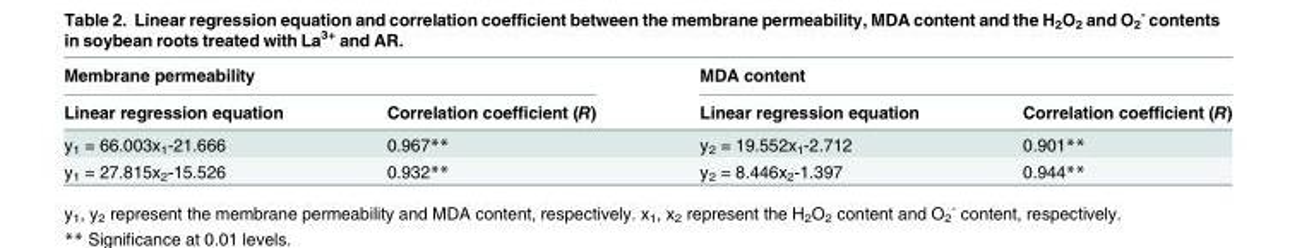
<table><thead><tr><td colspan="2">Membrane permeability</td><td colspan="2">MDA content</td></tr><tr><td>Linear regression equation</td><td>Correlation coefficient (R)</td><td>Linear regression equation</td><td>Correlation coefficient (R)</td></tr></thead><tbody><tr><td>y<sub>1</sub> = 66.003x<sub>1</sub>-21.666</td><td>0.967**</td><td>y<sub>2</sub> = 19.552x<sub>1</sub>-2.712</td><td>0.901**</td></tr><tr><td>y<sub>1</sub> = 27.815x<sub>2</sub>-15.526</td><td>0.932**</td><td>y<sub>2</sub> = 8.446x<sub>2</sub>-1.397</td><td>0.944**</td></tr></tbody></table>